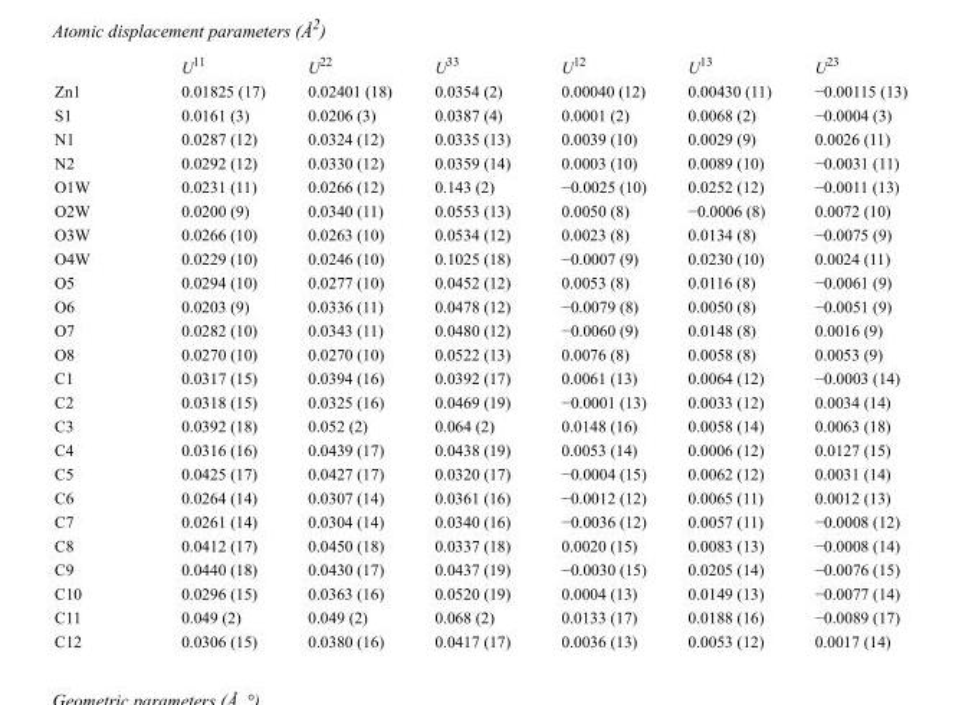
<table><thead><tr><td></td><td>U<sup>11</sup></td><td>U<sup>22</sup></td><td>U<sup>33</sup></td><td>U<sup>12</sup></td><td>U<sup>13</sup></td><td>U<sup>23</sup></td></tr></thead><tbody><tr><td>Zn1</td><td>0.01825 (17)</td><td>0.02401 (18)</td><td>0.0354 (2)</td><td>0.00040 (12)</td><td>0.00430 (11)</td><td>−0.00115 (13)</td></tr><tr><td>S1</td><td>0.0161 (3)</td><td>0.0206 (3)</td><td>0.0387 (4)</td><td>0.0001 (2)</td><td>0.0068 (2)</td><td>−0.0004 (3)</td></tr><tr><td>N1</td><td>0.0287 (12)</td><td>0.0324 (12)</td><td>0.0335 (13)</td><td>0.0039 (10)</td><td>0.0029 (9)</td><td>0.0026 (11)</td></tr><tr><td>N2</td><td>0.0292 (12)</td><td>0.0330 (12)</td><td>0.0359 (14)</td><td>0.0003 (10)</td><td>0.0089 (10)</td><td>−0.0031 (11)</td></tr><tr><td>O1W</td><td>0.0231 (11)</td><td>0.0266 (12)</td><td>0.143 (2)</td><td>−0.0025 (10)</td><td>0.0252 (12)</td><td>−0.0011 (13)</td></tr><tr><td>O2W</td><td>0.0200 (9)</td><td>0.0340 (11)</td><td>0.0553 (13)</td><td>0.0050 (8)</td><td>−0.0006 (8)</td><td>0.0072 (10)</td></tr><tr><td>O3W</td><td>0.0266 (10)</td><td>0.0263 (10)</td><td>0.0534 (12)</td><td>0.0023 (8)</td><td>0.0134 (8)</td><td>−0.0075 (9)</td></tr><tr><td>O4W</td><td>0.0229 (10)</td><td>0.0246 (10)</td><td>0.1025 (18)</td><td>−0.0007 (9)</td><td>0.0230 (10)</td><td>0.0024 (11)</td></tr><tr><td>O5</td><td>0.0294 (10)</td><td>0.0277 (10)</td><td>0.0452 (12)</td><td>0.0053 (8)</td><td>0.0116 (8)</td><td>−0.0061 (9)</td></tr><tr><td>O6</td><td>0.0203 (9)</td><td>0.0336 (11)</td><td>0.0478 (12)</td><td>−0.0079 (8)</td><td>0.0050 (8)</td><td>−0.0051 (9)</td></tr><tr><td>O7</td><td>0.0282 (10)</td><td>0.0343 (11)</td><td>0.0480 (12)</td><td>−0.0060 (9)</td><td>0.0148 (8)</td><td>0.0016 (9)</td></tr><tr><td>O8</td><td>0.0270 (10)</td><td>0.0270 (10)</td><td>0.0522 (13)</td><td>0.0076 (8)</td><td>0.0058 (8)</td><td>0.0053 (9)</td></tr><tr><td>C1</td><td>0.0317 (15)</td><td>0.0394 (16)</td><td>0.0392 (17)</td><td>0.0061 (13)</td><td>0.0064 (12)</td><td>−0.0003 (14)</td></tr><tr><td>C2</td><td>0.0318 (15)</td><td>0.0325 (16)</td><td>0.0469 (19)</td><td>−0.0001 (13)</td><td>0.0033 (12)</td><td>0.0034 (14)</td></tr><tr><td>C3</td><td>0.0392 (18)</td><td>0.052 (2)</td><td>0.064 (2)</td><td>0.0148 (16)</td><td>0.0058 (14)</td><td>0.0063 (18)</td></tr><tr><td>C4</td><td>0.0316 (16)</td><td>0.0439 (17)</td><td>0.0438 (19)</td><td>0.0053 (14)</td><td>0.0006 (12)</td><td>0.0127 (15)</td></tr><tr><td>C5</td><td>0.0425 (17)</td><td>0.0427 (17)</td><td>0.0320 (17)</td><td>−0.0004 (15)</td><td>0.0062 (12)</td><td>0.0031 (14)</td></tr><tr><td>C6</td><td>0.0264 (14)</td><td>0.0307 (14)</td><td>0.0361 (16)</td><td>−0.0012 (12)</td><td>0.0065 (11)</td><td>0.0012 (13)</td></tr><tr><td>C7</td><td>0.0261 (14)</td><td>0.0304 (14)</td><td>0.0340 (16)</td><td>−0.0036 (12)</td><td>0.0057 (11)</td><td>−0.0008 (12)</td></tr><tr><td>C8</td><td>0.0412 (17)</td><td>0.0450 (18)</td><td>0.0337 (18)</td><td>0.0020 (15)</td><td>0.0083 (13)</td><td>−0.0008 (14)</td></tr><tr><td>C9</td><td>0.0440 (18)</td><td>0.0430 (17)</td><td>0.0437 (19)</td><td>−0.0030 (15)</td><td>0.0205 (14)</td><td>−0.0076 (15)</td></tr><tr><td>C10</td><td>0.0296 (15)</td><td>0.0363 (16)</td><td>0.0520 (19)</td><td>0.0004 (13)</td><td>0.0149 (13)</td><td>−0.0077 (14)</td></tr><tr><td>C11</td><td>0.049 (2)</td><td>0.049 (2)</td><td>0.068 (2)</td><td>0.0133 (17)</td><td>0.0188 (16)</td><td>−0.0089 (17)</td></tr><tr><td>C12</td><td>0.0306 (15)</td><td>0.0380 (16)</td><td>0.0417 (17)</td><td>0.0036 (13)</td><td>0.0053 (12)</td><td>0.0017 (14)</td></tr></tbody></table>